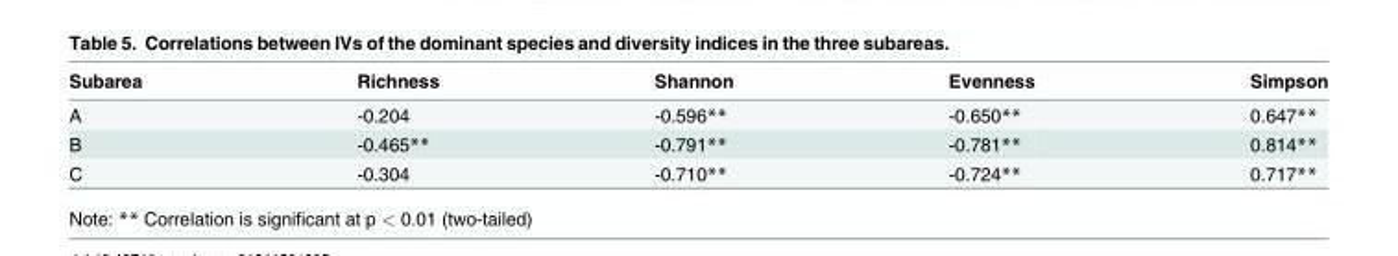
<table><thead><tr><td>Subarea</td><td>Richness</td><td>Shannon</td><td>Evenness</td><td>Simpson</td></tr></thead><tbody><tr><td>A</td><td>-0.204</td><td>-0.596**</td><td>-0.650**</td><td>0.647**</td></tr><tr><td>B</td><td>-0.465**</td><td>-0.791**</td><td>-0.781**</td><td>0.814**</td></tr><tr><td>C</td><td>-0.304</td><td>-0.710**</td><td>-0.724**</td><td>0.717**</td></tr></tbody></table>